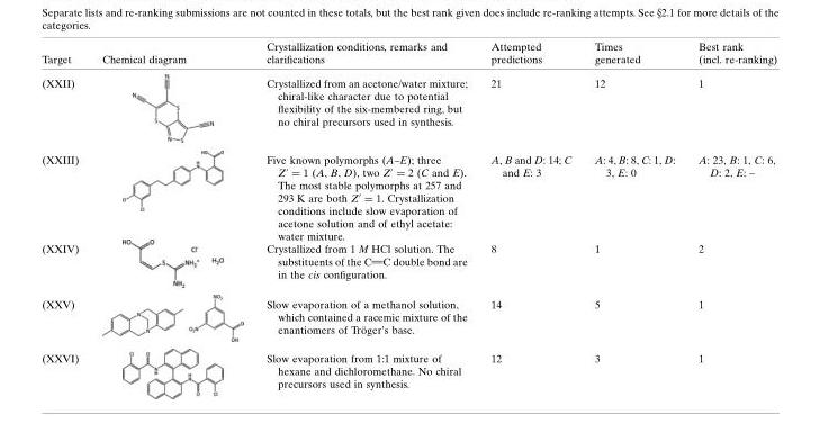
<table><thead><tr><td>Target</td><td>Chemical diagram</td><td>Crystallization conditions, remarks and clarifications</td><td>Attempted predictions</td><td>Times generated</td><td>Best rank (incl. re-ranking)</td></tr></thead><tbody><tr><td>(XXII)</td><td></td><td>Crystallized from an acetone/water mixture; chiral-like character due to potential flexibility of the six-membered ring, but no chiral precursors used in synthesis.</td><td>21</td><td>12</td><td>1</td></tr><tr><td>(XXIII)</td><td></td><td>Five known polymorphs (A–E); three Z0 ¼ 1 (A, B, D), two Z0 ¼ 2 (C and E). The most stable polymorphs at 257 and 293 K are both Z0 ¼ 1. Crystallization conditions include slow evaporation of acetone solution and of ethyl acetate: water mixture.</td><td>A, B and D: 14; C and E: 3</td><td>A: 4, B: 8, C: 1, D: 3, E: 0</td><td>A: 23, B: 1, C: 6, D: 2, E: –</td></tr><tr><td>(XXIV)</td><td></td><td>Crystallized from 1 M HCl solution. The substituents of the C C double bond are in the cis configuration.</td><td>8</td><td>1</td><td>2</td></tr><tr><td>(XXV)</td><td></td><td>Slow evaporation of a methanol solution, which contained a racemic mixture of the enantiomers of Tro¨ger’s base.</td><td>14</td><td>5</td><td>1</td></tr><tr><td>(XXVI)</td><td></td><td>Slow evaporation from 1:1 mixture of hexane and dichloromethane. No chiral precursors used in synthesis.</td><td>12</td><td>3</td><td>1</td></tr></tbody></table>